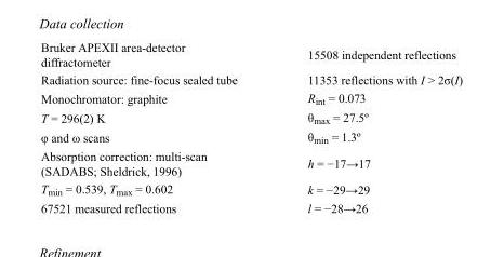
<table><tbody><tr><td>Bruker APEXII area-detector diffractometer</td><td>15508 independent reflections</td></tr><tr><td>Radiation source: fine-focus sealed tube</td><td>11353 reflections with I &gt; 2σ(I)</td></tr><tr><td>Monochromator: graphite</td><td>R<sub>int</sub> = 0.073</td></tr><tr><td>T = 296(2) K</td><td>θ<sub>max</sub> = 27.5º</td></tr><tr><td>φ and ω scans</td><td>θ<sub>min</sub> = 1.3º</td></tr><tr><td>Absorption correction: multi-scan (SADABS; Sheldrick, 1996)</td><td>h = −17→17</td></tr><tr><td>T<sub>min</sub> = 0.539, T<sub>max</sub> = 0.602</td><td>k = −29→29</td></tr><tr><td>67521 measured reflections</td><td>l = −28→26</td></tr></tbody></table>